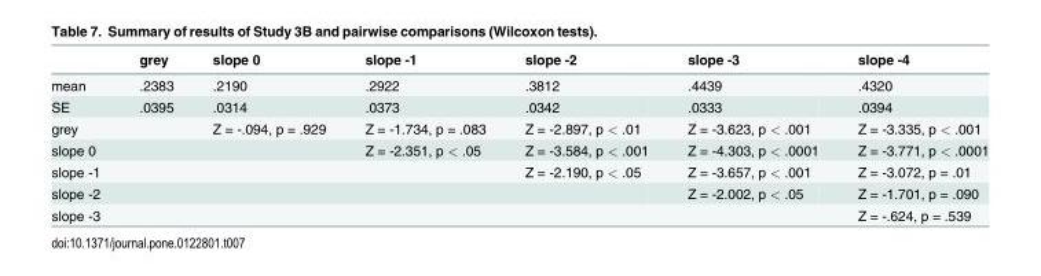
<table><thead><tr><td></td><td>grey</td><td>slope 0</td><td>slope -1</td><td>slope -2</td><td>slope -3</td><td>slope -4</td></tr></thead><tbody><tr><td>mean</td><td>.2383</td><td>.2190</td><td>.2922</td><td>.3812</td><td>.4439</td><td>.4320</td></tr><tr><td>SE</td><td>.0395</td><td>.0314</td><td>.0373</td><td>.0342</td><td>.0333</td><td>.0394</td></tr><tr><td>grey</td><td></td><td>Z = -.094, p = .929</td><td>Z = -1.734, p = .083</td><td>Z = -2.897, p &lt; .01</td><td>Z = -3.623, p &lt; .001</td><td>Z = -3.335, p &lt; .001</td></tr><tr><td>slope 0</td><td></td><td></td><td>Z = -2.351, p &lt; .05</td><td>Z = -3.584, p &lt; .001</td><td>Z = -4.303, p &lt; .0001</td><td>Z = -3.771, p &lt; .0001</td></tr><tr><td>slope -1</td><td></td><td></td><td></td><td>Z = -2.190, p &lt; .05</td><td>Z = -3.657, p &lt; .001</td><td>Z = -3.072, p = .01</td></tr><tr><td>slope -2</td><td></td><td></td><td></td><td></td><td>Z = -2.002, p &lt; .05</td><td>Z = -1.701, p = .090</td></tr><tr><td>slope -3</td><td></td><td></td><td></td><td></td><td></td><td>Z = -.624, p = .539</td></tr></tbody></table>